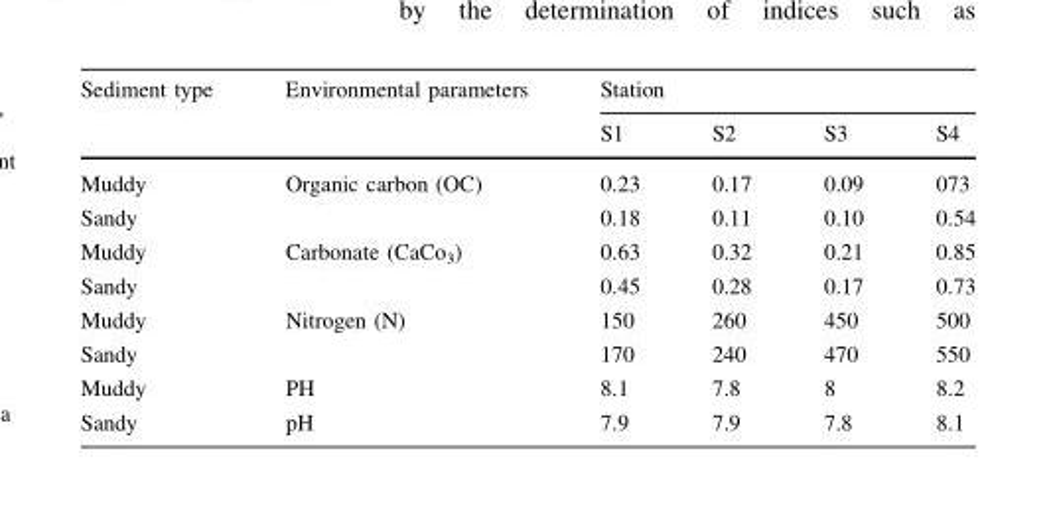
<table><thead><tr><td rowspan="2">Sediment type</td><td rowspan="2">Environmental parameters</td><td colspan="4">Station</td></tr><tr><td>S1</td><td>S2</td><td>S3</td><td>S4</td></tr></thead><tbody><tr><td>Muddy</td><td rowspan="2">Organic carbon (OC)</td><td>0.23</td><td>0.17</td><td>0.09</td><td>073</td></tr><tr><td>Sandy</td><td>0.18</td><td>0.11</td><td>0.10</td><td>0.54</td></tr><tr><td>Muddy</td><td rowspan="2">Carbonate (CaCo<sub>3</sub>)</td><td>0.63</td><td>0.32</td><td>0.21</td><td>0.85</td></tr><tr><td>Sandy</td><td>0.45</td><td>0.28</td><td>0.17</td><td>0.73</td></tr><tr><td>Muddy</td><td rowspan="2">Nitrogen (N)</td><td>150</td><td>260</td><td>450</td><td>500</td></tr><tr><td>Sandy</td><td>170</td><td>240</td><td>470</td><td>550</td></tr><tr><td>Muddy</td><td>PH</td><td>8.1</td><td>7.8</td><td>8</td><td>8.2</td></tr><tr><td>Sandy</td><td>pH</td><td>7.9</td><td>7.9</td><td>7.8</td><td>8.1</td></tr></tbody></table>